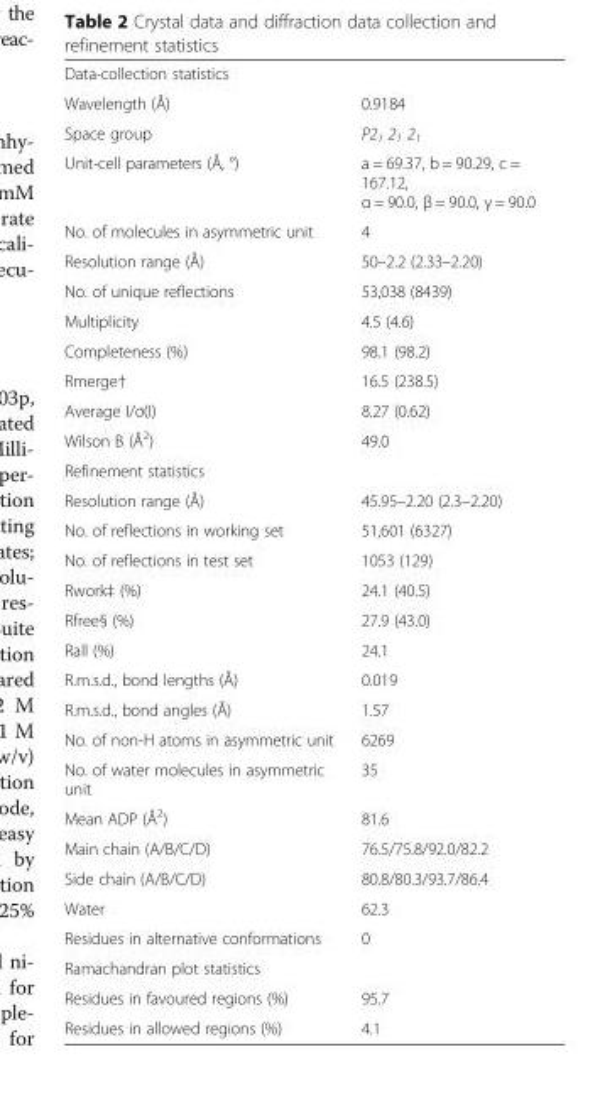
<table><tbody><tr><td colspan="2">Data-collection statistics</td></tr><tr><td>Wavelength (Å)</td><td>0.9184</td></tr><tr><td>Space group</td><td>P2<sub>1</sub> 2<sub>1</sub> 2<sub>1</sub></td></tr><tr><td>Unit-cell parameters (Å, °)</td><td>a = 69.37, b = 90.29, c = 167.12, α = 90.0, β = 90.0, γ = 90.0</td></tr><tr><td>No. of molecules in asymmetric unit</td><td>4</td></tr><tr><td>Resolution range (Å)</td><td>50–2.2 (2.33–2.20)</td></tr><tr><td>No. of unique reflections</td><td>53,038 (8439)</td></tr><tr><td>Multiplicity</td><td>4.5 (4.6)</td></tr><tr><td>Completeness (%)</td><td>98.1 (98.2)</td></tr><tr><td>Rmerge†</td><td>16.5 (238.5)</td></tr><tr><td>Average I/σ(I)</td><td>8.27 (0.62)</td></tr><tr><td>Wilson B (Å<sup>2</sup>)</td><td>49.0</td></tr><tr><td colspan="2">Refinement statistics</td></tr><tr><td>Resolution range (Å)</td><td>45.95–2.20 (2.3–2.20)</td></tr><tr><td>No. of reflections in working set</td><td>51,601 (6327)</td></tr><tr><td>No. of reflections in test set</td><td>1053 (129)</td></tr><tr><td>Rwork‡ (%)</td><td>24.1 (40.5)</td></tr><tr><td>Rfree§ (%)</td><td>27.9 (43.0)</td></tr><tr><td>Rall (%)</td><td>24.1</td></tr><tr><td>R.m.s.d., bond lengths (Å)</td><td>0.019</td></tr><tr><td>R.m.s.d., bond angles (Å)</td><td>1.57</td></tr><tr><td>No. of non-H atoms in asymmetric unit</td><td>6269</td></tr><tr><td>No. of water molecules in asymmetric unit</td><td>35</td></tr><tr><td>Mean ADP (Å<sup>2</sup>)</td><td>81.6</td></tr><tr><td>Main chain (A/B/C/D)</td><td>76.5/75.8/92.0/82.2</td></tr><tr><td>Side chain (A/B/C/D)</td><td>80.8/80.3/93.7/86.4</td></tr><tr><td>Water</td><td>62.3</td></tr><tr><td>Residues in alternative conformations</td><td>0</td></tr><tr><td colspan="2">Ramachandran plot statistics</td></tr><tr><td>Residues in favoured regions (%)</td><td>95.7</td></tr><tr><td>Residues in allowed regions (%)</td><td>4.1</td></tr></tbody></table>